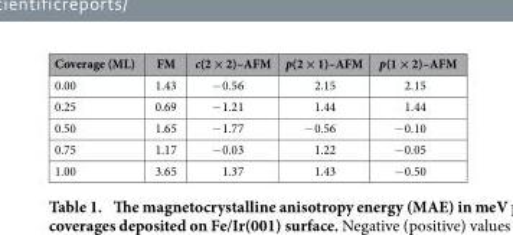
<table><thead><tr><td>Coverage (ML)</td><td>FM</td><td>c(2 × 2)–AFM</td><td>p(2 × 1)–AFM</td><td>p(1 × 2)–AFM</td></tr></thead><tbody><tr><td>0.00</td><td>1.43</td><td>− 0.56</td><td>2.15</td><td>2.15</td></tr><tr><td>0.25</td><td>0.69</td><td>− 1.21</td><td>1.44</td><td>1.44</td></tr><tr><td>0.50</td><td>1.65</td><td>− 1.77</td><td>− 0.56</td><td>− 0.10</td></tr><tr><td>0.75</td><td>1.17</td><td>− 0.03</td><td>1.22</td><td>− 0.05</td></tr><tr><td>1.00</td><td>3.65</td><td>1.37</td><td>1.43</td><td>− 0.50</td></tr></tbody></table>